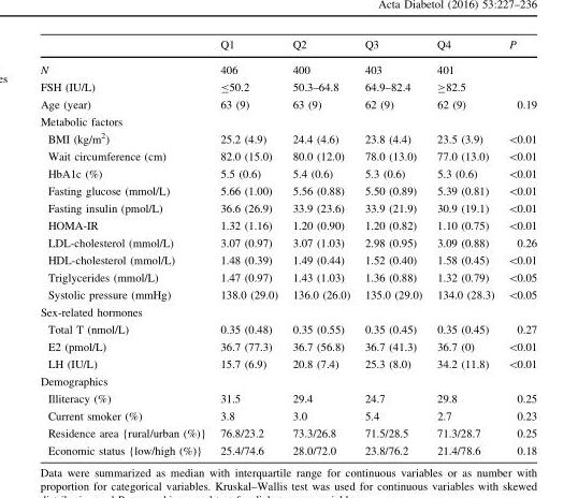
<table><thead><tr><td></td><td>Q1</td><td>Q2</td><td>Q3</td><td>Q4</td><td>P</td></tr></thead><tbody><tr><td>N</td><td>406</td><td>400</td><td>403</td><td>401</td><td></td></tr><tr><td>FSH (IU/L)</td><td>≤50.2</td><td>50.3–64.8</td><td>64.9–82.4</td><td>≥82.5</td><td></td></tr><tr><td>Age (year)</td><td>63 (9)</td><td>63 (9)</td><td>62 (9)</td><td>62 (9)</td><td>0.19</td></tr><tr><td colspan="6">Metabolic factors</td></tr><tr><td>BMI (kg/m<sup>2</sup>)</td><td>25.2 (4.9)</td><td>24.4 (4.6)</td><td>23.8 (4.4)</td><td>23.5 (3.9)</td><td>&lt;0.01</td></tr><tr><td>Wait circumference (cm)</td><td>82.0 (15.0)</td><td>80.0 (12.0)</td><td>78.0 (13.0)</td><td>77.0 (13.0)</td><td>&lt;0.01</td></tr><tr><td>HbA1c (%)</td><td>5.5 (0.6)</td><td>5.4 (0.6)</td><td>5.3 (0.6)</td><td>5.3 (0.6)</td><td>&lt;0.01</td></tr><tr><td>Fasting glucose (mmol/L)</td><td>5.66 (1.00)</td><td>5.56 (0.88)</td><td>5.50 (0.89)</td><td>5.39 (0.81)</td><td>&lt;0.01</td></tr><tr><td>Fasting insulin (pmol/L)</td><td>36.6 (26.9)</td><td>33.9 (23.6)</td><td>33.9 (21.9)</td><td>30.9 (19.1)</td><td>&lt;0.01</td></tr><tr><td>HOMA-IR</td><td>1.32 (1.16)</td><td>1.20 (0.90)</td><td>1.20 (0.82)</td><td>1.10 (0.75)</td><td>&lt;0.01</td></tr><tr><td>LDL-cholesterol (mmol/L)</td><td>3.07 (0.97)</td><td>3.07 (1.03)</td><td>2.98 (0.95)</td><td>3.09 (0.88)</td><td>0.26</td></tr><tr><td>HDL-cholesterol (mmol/L)</td><td>1.48 (0.39)</td><td>1.49 (0.44)</td><td>1.52 (0.40)</td><td>1.58 (0.45)</td><td>&lt;0.01</td></tr><tr><td>Triglycerides (mmol/L)</td><td>1.47 (0.97)</td><td>1.43 (1.03)</td><td>1.36 (0.88)</td><td>1.32 (0.79)</td><td>&lt;0.05</td></tr><tr><td>Systolic pressure (mmHg)</td><td>138.0 (29.0)</td><td>136.0 (26.0)</td><td>135.0 (29.0)</td><td>134.0 (28.3)</td><td>&lt;0.05</td></tr><tr><td colspan="6">Sex-related hormones</td></tr><tr><td>Total T (nmol/L)</td><td>0.35 (0.48)</td><td>0.35 (0.55)</td><td>0.35 (0.45)</td><td>0.35 (0.45)</td><td>0.27</td></tr><tr><td>E2 (pmol/L)</td><td>36.7 (77.3)</td><td>36.7 (56.8)</td><td>36.7 (41.3)</td><td>36.7 (0)</td><td>&lt;0.01</td></tr><tr><td>LH (IU/L)</td><td>15.7 (6.9)</td><td>20.8 (7.4)</td><td>25.3 (8.0)</td><td>34.2 (11.8)</td><td>&lt;0.01</td></tr><tr><td colspan="6">Demographics</td></tr><tr><td>Illiteracy (%)</td><td>31.5</td><td>29.4</td><td>24.7</td><td>29.8</td><td>0.25</td></tr><tr><td>Current smoker (%)</td><td>3.8</td><td>3.0</td><td>5.4</td><td>2.7</td><td>0.23</td></tr><tr><td>Residence area {rural/urban (%)}</td><td>76.8/23.2</td><td>73.3/26.8</td><td>71.5/28.5</td><td>71.3/28.7</td><td>0.25</td></tr><tr><td>Economic status {low/high (%)}</td><td>25.4/74.6</td><td>28.0/72.0</td><td>23.8/76.2</td><td>21.4/78.6</td><td>0.18</td></tr></tbody></table>